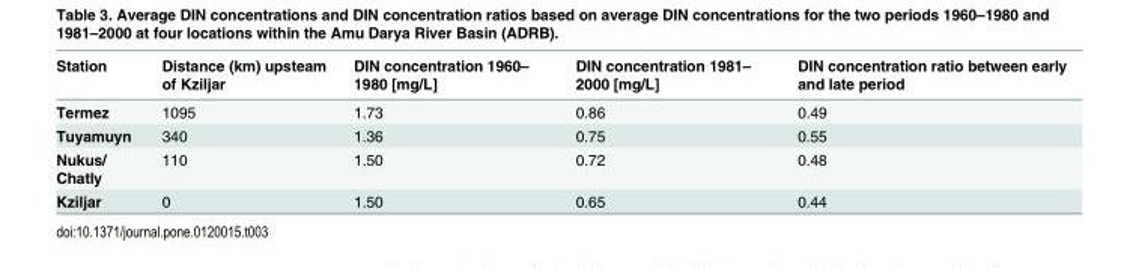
<table><thead><tr><td>Station</td><td>Distance (km) upsteam of Kziljar</td><td>DIN concentration 1960– 1980 [mg/L]</td><td>DIN concentration 1981– 2000 [mg/L]</td><td>DIN concentration ratio between early and late period</td></tr></thead><tbody><tr><td>Termez</td><td>1095</td><td>1.73</td><td>0.86</td><td>0.49</td></tr><tr><td>Tuyamuyn</td><td>340</td><td>1.36</td><td>0.75</td><td>0.55</td></tr><tr><td>Nukus/ Chatly</td><td>110</td><td>1.50</td><td>0.72</td><td>0.48</td></tr><tr><td>Kziljar</td><td>0</td><td>1.50</td><td>0.65</td><td>0.44</td></tr></tbody></table>